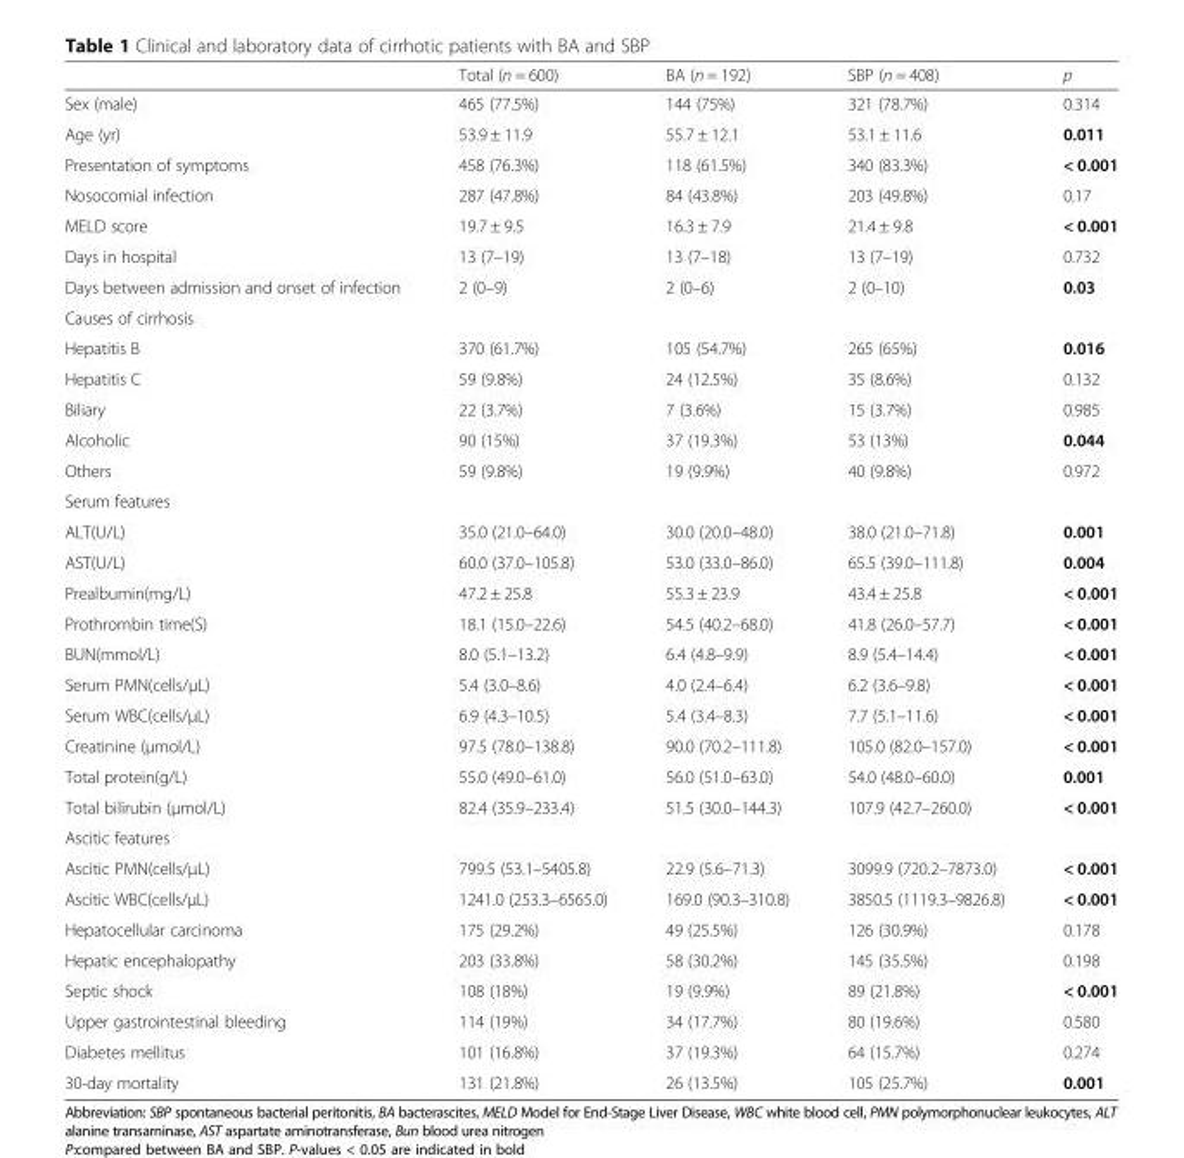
<table><thead><tr><td></td><td>Total (n = 600)</td><td>BA (n = 192)</td><td>SBP (n = 408)</td><td>p</td></tr></thead><tbody><tr><td>Sex (male)</td><td>465 (77.5%)</td><td>144 (75%)</td><td>321 (78.7%)</td><td>0.314</td></tr><tr><td>Age (yr)</td><td>53.9 ± 11.9</td><td>55.7 ± 12.1</td><td>53.1 ± 11.6</td><td>0.011</td></tr><tr><td>Presentation of symptoms</td><td>458 (76.3%)</td><td>118 (61.5%)</td><td>340 (83.3%)</td><td>&lt; 0.001</td></tr><tr><td>Nosocomial infection</td><td>287 (47.8%)</td><td>84 (43.8%)</td><td>203 (49.8%)</td><td>0.17</td></tr><tr><td>MELD score</td><td>19.7 ± 9.5</td><td>16.3 ± 7.9</td><td>21.4 ± 9.8</td><td>&lt; 0.001</td></tr><tr><td>Days in hospital</td><td>13 (7–19)</td><td>13 (7–18)</td><td>13 (7–19)</td><td>0.732</td></tr><tr><td>Days between admission and onset of infection</td><td>2 (0–9)</td><td>2 (0–6)</td><td>2 (0–10)</td><td>0.03</td></tr><tr><td colspan="5">Causes of cirrhosis</td></tr><tr><td>Hepatitis B</td><td>370 (61.7%)</td><td>105 (54.7%)</td><td>265 (65%)</td><td>0.016</td></tr><tr><td>Hepatitis C</td><td>59 (9.8%)</td><td>24 (12.5%)</td><td>35 (8.6%)</td><td>0.132</td></tr><tr><td>Biliary</td><td>22 (3.7%)</td><td>7 (3.6%)</td><td>15 (3.7%)</td><td>0.985</td></tr><tr><td>Alcoholic</td><td>90 (15%)</td><td>37 (19.3%)</td><td>53 (13%)</td><td>0.044</td></tr><tr><td>Others</td><td>59 (9.8%)</td><td>19 (9.9%)</td><td>40 (9.8%)</td><td>0.972</td></tr><tr><td colspan="5">Serum features</td></tr><tr><td>ALT(U/L)</td><td>35.0 (21.0–64.0)</td><td>30.0 (20.0–48.0)</td><td>38.0 (21.0–71.8)</td><td>0.001</td></tr><tr><td>AST(U/L)</td><td>60.0 (37.0–105.8)</td><td>53.0 (33.0–86.0)</td><td>65.5 (39.0–111.8)</td><td>0.004</td></tr><tr><td>Prealbumin(mg/L)</td><td>47.2 ± 25.8</td><td>55.3 ± 23.9</td><td>43.4 ± 25.8</td><td>&lt; 0.001</td></tr><tr><td>Prothrombin time(S)</td><td>18.1 (15.0–22.6)</td><td>54.5 (40.2–68.0)</td><td>41.8 (26.0–57.7)</td><td>&lt; 0.001</td></tr><tr><td>BUN(mmol/L)</td><td>8.0 (5.1–13.2)</td><td>6.4 (4.8–9.9)</td><td>8.9 (5.4–14.4)</td><td>&lt; 0.001</td></tr><tr><td>Serum PMN(cells/μL)</td><td>5.4 (3.0–8.6)</td><td>4.0 (2.4–6.4)</td><td>6.2 (3.6–9.8)</td><td>&lt; 0.001</td></tr><tr><td>Serum WBC(cells/μL)</td><td>6.9 (4.3–10.5)</td><td>5.4 (3.4–8.3)</td><td>7.7 (5.1–11.6)</td><td>&lt; 0.001</td></tr><tr><td>Creatinine (μmol/L)</td><td>97.5 (78.0–138.8)</td><td>90.0 (70.2–111.8)</td><td>105.0 (82.0–157.0)</td><td>&lt; 0.001</td></tr><tr><td>Total protein(g/L)</td><td>55.0 (49.0–61.0)</td><td>56.0 (51.0–63.0)</td><td>54.0 (48.0–60.0)</td><td>0.001</td></tr><tr><td>Total bilirubin (μmol/L)</td><td>82.4 (35.9–233.4)</td><td>51.5 (30.0–144.3)</td><td>107.9 (42.7–260.0)</td><td>&lt; 0.001</td></tr><tr><td colspan="5">Ascitic features</td></tr><tr><td>Ascitic PMN(cells/μL)</td><td>799.5 (53.1–5405.8)</td><td>22.9 (5.6–71.3)</td><td>3099.9 (720.2–7873.0)</td><td>&lt; 0.001</td></tr><tr><td>Ascitic WBC(cells/μL)</td><td>1241.0 (253.3–6565.0)</td><td>169.0 (90.3–310.8)</td><td>3850.5 (1119.3–9826.8)</td><td>&lt; 0.001</td></tr><tr><td>Hepatocellular carcinoma</td><td>175 (29.2%)</td><td>49 (25.5%)</td><td>126 (30.9%)</td><td>0.178</td></tr><tr><td>Hepatic encephalopathy</td><td>203 (33.8%)</td><td>58 (30.2%)</td><td>145 (35.5%)</td><td>0.198</td></tr><tr><td>Septic shock</td><td>108 (18%)</td><td>19 (9.9%)</td><td>89 (21.8%)</td><td>&lt; 0.001</td></tr><tr><td>Upper gastrointestinal bleeding</td><td>114 (19%)</td><td>34 (17.7%)</td><td>80 (19.6%)</td><td>0.580</td></tr><tr><td>Diabetes mellitus</td><td>101 (16.8%)</td><td>37 (19.3%)</td><td>64 (15.7%)</td><td>0.274</td></tr><tr><td>30-day mortality</td><td>131 (21.8%)</td><td>26 (13.5%)</td><td>105 (25.7%)</td><td>0.001</td></tr></tbody></table>